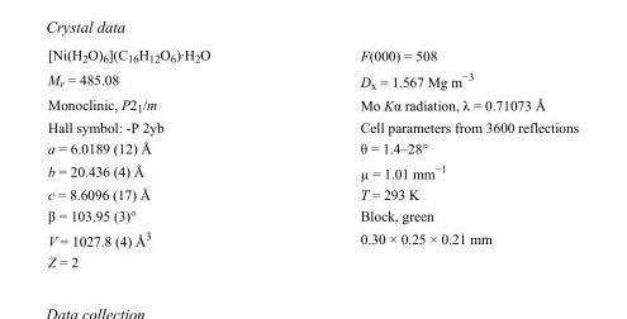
<table><tbody><tr><td>[Ni(H<sub>2</sub>O)<sub>6</sub>](C<sub>16</sub>H<sub>12</sub>O<sub>6</sub>)·H<sub>2</sub>O</td><td>F(000) = 508</td></tr><tr><td>M<sub>r</sub> = 485.08</td><td>D<sub>x</sub> = 1.567 Mg m<sup>−3</sup></td></tr><tr><td>Monoclinic, P2<sub>1</sub>/m</td><td>Mo Kα radiation, λ = 0.71073 Å</td></tr><tr><td>Hall symbol: -P 2yb</td><td>Cell parameters from 3600 reflections</td></tr><tr><td>a = 6.0189 (12) Å</td><td>θ = 1.4–28°</td></tr><tr><td>b = 20.436 (4) Å</td><td>µ = 1.01 mm<sup>−1</sup></td></tr><tr><td>c = 8.6096 (17) Å</td><td>T = 293 K</td></tr><tr><td>β = 103.95 (3)°</td><td>Block, green</td></tr><tr><td>V = 1027.8 (4) Å<sup>3</sup></td><td>0.30 × 0.25 × 0.21 mm</td></tr><tr><td>Z = 2</td><td></td></tr></tbody></table>